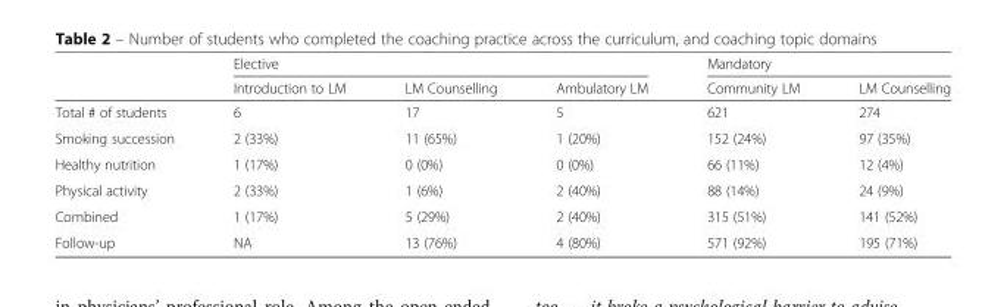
<table><thead><tr><td rowspan="2"></td><td colspan="3">Elective</td><td colspan="2">Mandatory</td></tr><tr><td>Introduction to LM</td><td>LM Counselling</td><td>Ambulatory LM</td><td>Community LM</td><td>LM Counselling</td></tr></thead><tbody><tr><td>Total # of students</td><td>6</td><td>17</td><td>5</td><td>621</td><td>274</td></tr><tr><td>Smoking succession</td><td>2 (33%)</td><td>11 (65%)</td><td>1 (20%)</td><td>152 (24%)</td><td>97 (35%)</td></tr><tr><td>Healthy nutrition</td><td>1 (17%)</td><td>0 (0%)</td><td>0 (0%)</td><td>66 (11%)</td><td>12 (4%)</td></tr><tr><td>Physical activity</td><td>2 (33%)</td><td>1 (6%)</td><td>2 (40%)</td><td>88 (14%)</td><td>24 (9%)</td></tr><tr><td>Combined</td><td>1 (17%)</td><td>5 (29%)</td><td>2 (40%)</td><td>315 (51%)</td><td>141 (52%)</td></tr><tr><td>Follow-up</td><td>NA</td><td>13 (76%)</td><td>4 (80%)</td><td>571 (92%)</td><td>195 (71%)</td></tr></tbody></table>